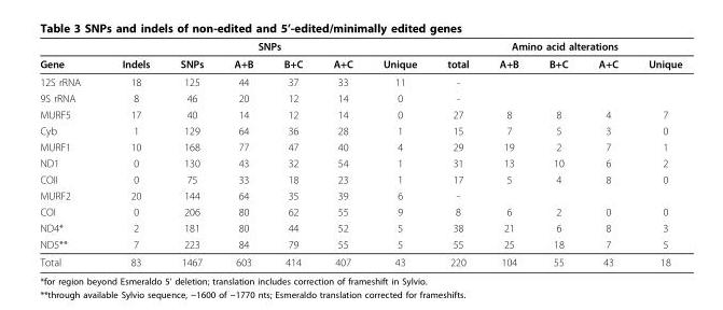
<table><thead><tr><td rowspan="2">Gene</td><td colspan="6">SNPs</td><td colspan="5">Amino acid alterations</td></tr><tr><td>Indels</td><td>SNPs</td><td>A+B</td><td>B+C</td><td>A+C</td><td>Unique</td><td>total</td><td>A+B</td><td>B+C</td><td>A+C</td><td>Unique</td></tr></thead><tbody><tr><td>12S rRNA</td><td>18</td><td>125</td><td>44</td><td>37</td><td>33</td><td>11</td><td>-</td><td></td><td></td><td></td><td></td></tr><tr><td>9S rRNA</td><td>8</td><td>46</td><td>20</td><td>12</td><td>14</td><td>0</td><td>-</td><td></td><td></td><td></td><td></td></tr><tr><td>MURF5</td><td>17</td><td>40</td><td>14</td><td>12</td><td>14</td><td>0</td><td>27</td><td>8</td><td>8</td><td>4</td><td>7</td></tr><tr><td>Cyb</td><td>1</td><td>129</td><td>64</td><td>36</td><td>28</td><td>1</td><td>15</td><td>7</td><td>5</td><td>3</td><td>0</td></tr><tr><td>MURF1</td><td>10</td><td>168</td><td>77</td><td>47</td><td>40</td><td>4</td><td>29</td><td>19</td><td>2</td><td>7</td><td>1</td></tr><tr><td>ND1</td><td>0</td><td>130</td><td>43</td><td>32</td><td>54</td><td>1</td><td>31</td><td>13</td><td>10</td><td>6</td><td>2</td></tr><tr><td>COII</td><td>0</td><td>75</td><td>33</td><td>18</td><td>23</td><td>1</td><td>17</td><td>5</td><td>4</td><td>8</td><td>0</td></tr><tr><td>MURF2</td><td>20</td><td>144</td><td>64</td><td>35</td><td>39</td><td>6</td><td>-</td><td></td><td></td><td></td><td></td></tr><tr><td>COI</td><td>0</td><td>206</td><td>80</td><td>62</td><td>55</td><td>9</td><td>8</td><td>6</td><td>2</td><td>0</td><td>0</td></tr><tr><td>ND4*</td><td>2</td><td>181</td><td>80</td><td>44</td><td>52</td><td>5</td><td>38</td><td>21</td><td>6</td><td>8</td><td>3</td></tr><tr><td>ND5**</td><td>7</td><td>223</td><td>84</td><td>79</td><td>55</td><td>5</td><td>55</td><td>25</td><td>18</td><td>7</td><td>5</td></tr><tr><td>Total</td><td>83</td><td>1467</td><td>603</td><td>414</td><td>407</td><td>43</td><td>220</td><td>104</td><td>55</td><td>43</td><td>18</td></tr></tbody></table>